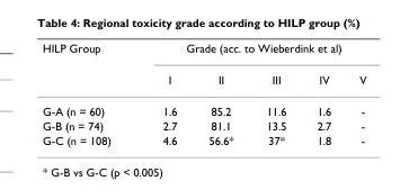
<table><thead><tr><td rowspan="2">HILP Group</td><td colspan="5">Grade (acc. to Wieberdink et al)</td></tr><tr><td>I</td><td>II</td><td>III</td><td>IV</td><td>V</td></tr></thead><tbody><tr><td>G-A (n = 60)</td><td>1.6</td><td>85.2</td><td>11.6</td><td>1.6</td><td>-</td></tr><tr><td>G-B (n = 74)</td><td>2.7</td><td>81.1</td><td>13.5</td><td>2.7</td><td>-</td></tr><tr><td>G-C (n = 108)</td><td>4.6</td><td>56.6*</td><td>37*</td><td>1.8</td><td>-</td></tr></tbody></table>